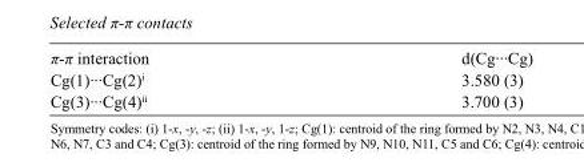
<table><tbody><tr><td>π-π interaction</td><td>d(Cg···Cg)</td></tr><tr><td>Cg(1)···Cg(2)<sup>i</sup></td><td>3.580 (3)</td></tr><tr><td>Cg(3)···Cg(4)<sup>ii</sup></td><td>3.700 (3)</td></tr></tbody></table>